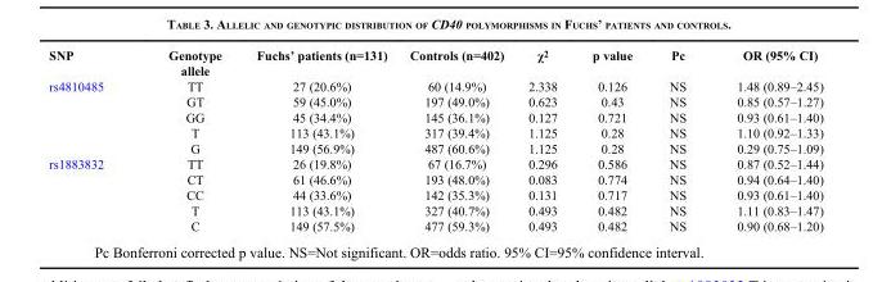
<table><thead><tr><td>SNP</td><td>Genotype allele</td><td>Fuchs’ patients (n=131)</td><td>Controls (n=402)</td><td>χ<sup>2</sup></td><td>p value</td><td>Pc</td><td>OR (95% CI)</td></tr></thead><tbody><tr><td rowspan="5">rs4810485</td><td>TT</td><td>27 (20.6%)</td><td>60 (14.9%)</td><td>2.338</td><td>0.126</td><td>NS</td><td>1.48 (0.89–2.45)</td></tr><tr><td>GT</td><td>59 (45.0%)</td><td>197 (49.0%)</td><td>0.623</td><td>0.43</td><td>NS</td><td>0.85 (0.57–1.27)</td></tr><tr><td>GG</td><td>45 (34.4%)</td><td>145 (36.1%)</td><td>0.127</td><td>0.721</td><td>NS</td><td>0.93 (0.61–1.40)</td></tr><tr><td>T</td><td>113 (43.1%)</td><td>317 (39.4%)</td><td>1.125</td><td>0.28</td><td>NS</td><td>1.10 (0.92–1.33)</td></tr><tr><td>G</td><td>149 (56.9%)</td><td>487 (60.6%)</td><td>1.125</td><td>0.28</td><td>NS</td><td>0.29 (0.75–1.09)</td></tr><tr><td rowspan="5">rs1883832</td><td>TT</td><td>26 (19.8%)</td><td>67 (16.7%)</td><td>0.296</td><td>0.586</td><td>NS</td><td>0.87 (0.52–1.44)</td></tr><tr><td>CT</td><td>61 (46.6%)</td><td>193 (48.0%)</td><td>0.083</td><td>0.774</td><td>NS</td><td>0.94 (0.64–1.40)</td></tr><tr><td>CC</td><td>44 (33.6%)</td><td>142 (35.3%)</td><td>0.131</td><td>0.717</td><td>NS</td><td>0.93 (0.61–1.40)</td></tr><tr><td>T</td><td>113 (43.1%)</td><td>327 (40.7%)</td><td>0.493</td><td>0.482</td><td>NS</td><td>1.11 (0.83–1.47)</td></tr><tr><td>C</td><td>149 (57.5%)</td><td>477 (59.3%)</td><td>0.493</td><td>0.482</td><td>NS</td><td>0.90 (0.68–1.20)</td></tr></tbody></table>